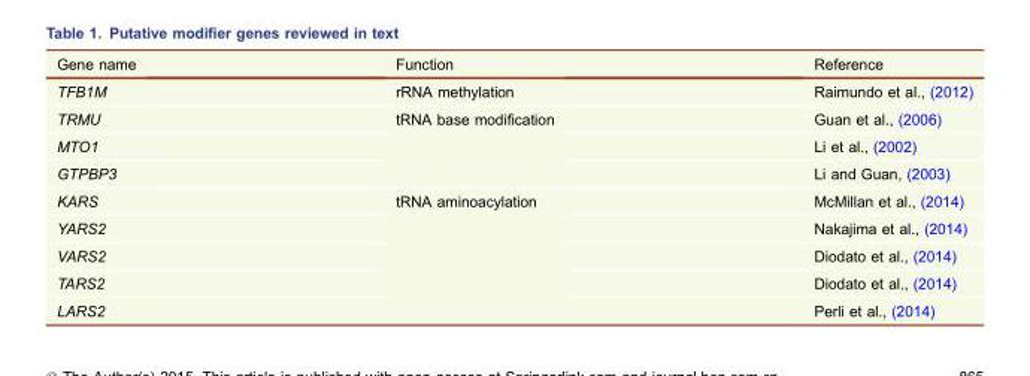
<table><thead><tr><td>Gene name</td><td>Function</td><td>Reference</td></tr></thead><tbody><tr><td>TFB1M</td><td>rRNA methylation</td><td>Raimundo et al., (2012)</td></tr><tr><td>TRMU</td><td rowspan="3">tRNA base modification</td><td>Guan et al., (2006)</td></tr><tr><td>MTO1</td><td>Li et al., (2002)</td></tr><tr><td>GTPBP3</td><td>Li and Guan, (2003)</td></tr><tr><td>KARS</td><td rowspan="5">tRNA aminoacylation</td><td>McMillan et al., (2014)</td></tr><tr><td>YARS2</td><td>Nakajima et al., (2014)</td></tr><tr><td>VARS2</td><td>Diodato et al., (2014)</td></tr><tr><td>TARS2</td><td>Diodato et al., (2014)</td></tr><tr><td>LARS2</td><td>Perli et al., (2014)</td></tr></tbody></table>